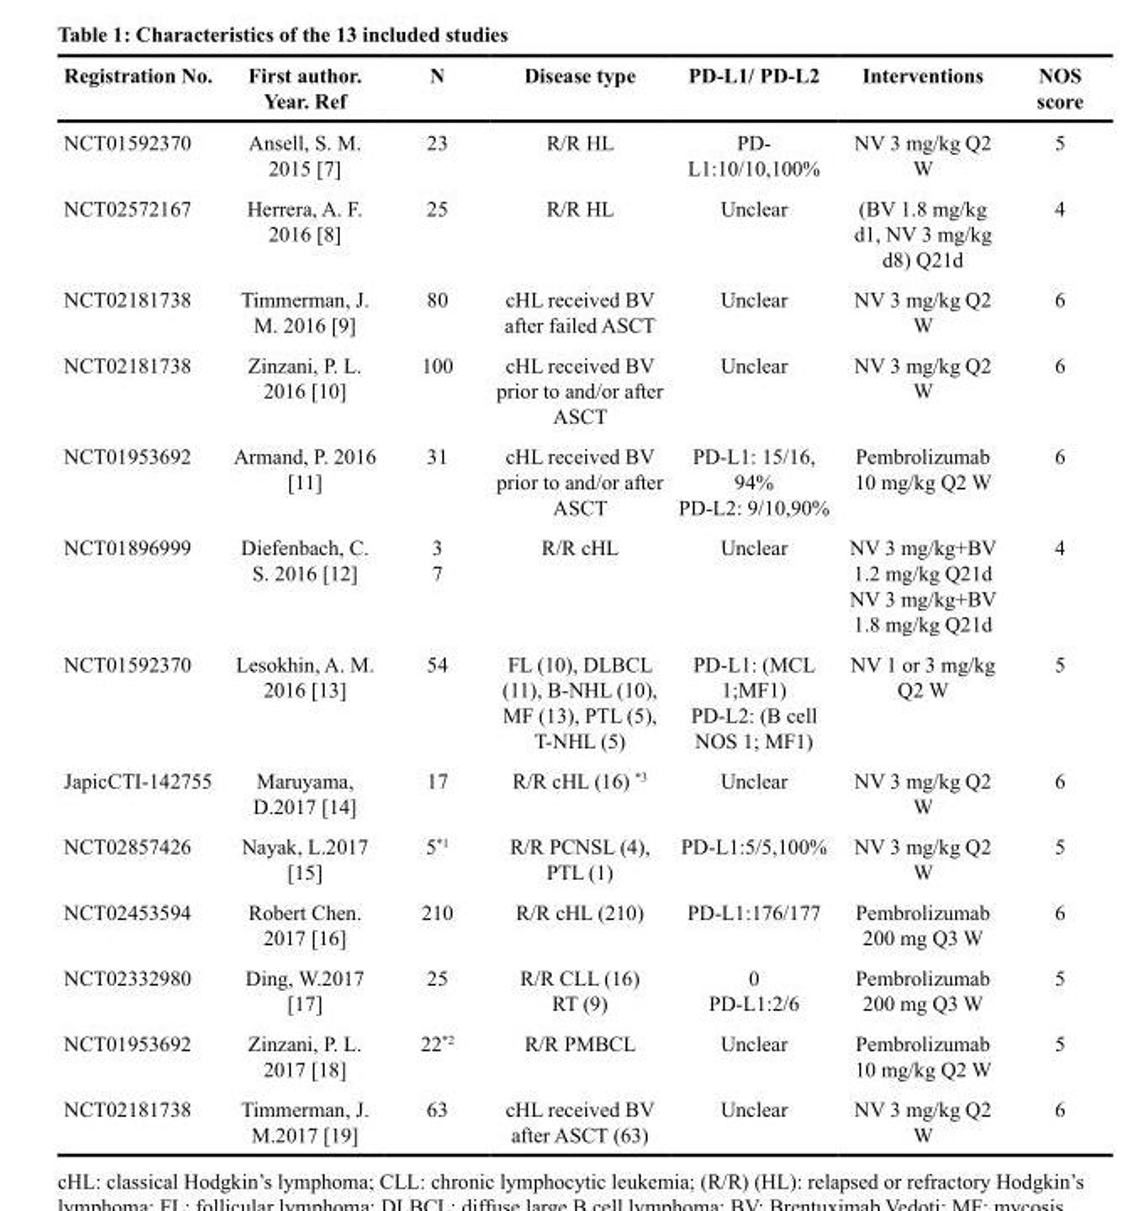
<table><thead><tr><td>Registration No.</td><td>First author. Year. Ref</td><td>N</td><td>Disease type</td><td>PD-L1/ PD-L2</td><td>Interventions</td><td>NOS score</td></tr></thead><tbody><tr><td>NCT01592370</td><td>Ansell, S. M. 2015 [7]</td><td>23</td><td>R/R HL</td><td>PD- L1:10/10,100%</td><td>NV 3 mg/kg Q2 W</td><td>5</td></tr><tr><td>NCT02572167</td><td>Herrera, A. F. 2016 [8]</td><td>25</td><td>R/R HL</td><td>Unclear</td><td>(BV 1.8 mg/kg d1, NV 3 mg/kg d8) Q21d</td><td>4</td></tr><tr><td>NCT02181738</td><td>Timmerman, J. M. 2016 [9]</td><td>80</td><td>cHL received BV after failed ASCT</td><td>Unclear</td><td>NV 3 mg/kg Q2 W</td><td>6</td></tr><tr><td>NCT02181738</td><td>Zinzani, P. L. 2016 [10]</td><td>100</td><td>cHL received BV prior to and/or after ASCT</td><td>Unclear</td><td>NV 3 mg/kg Q2 W</td><td>6</td></tr><tr><td>NCT01953692</td><td>Armand, P. 2016 [11]</td><td>31</td><td>cHL received BV prior to and/or after ASCT</td><td>PD-L1: 15/16, 94% PD-L2: 9/10,90%</td><td>Pembrolizumab 10 mg/kg Q2 W</td><td>6</td></tr><tr><td>NCT01896999</td><td>Diefenbach, C. S. 2016 [12]</td><td>3 7</td><td>R/R cHL</td><td>Unclear</td><td>NV 3 mg/kg+BV 1.2 mg/kg Q21d NV 3 mg/kg+BV 1.8 mg/kg Q21d</td><td>4</td></tr><tr><td>NCT01592370</td><td>Lesokhin, A. M. 2016 [13]</td><td>54</td><td>FL (10), DLBCL (11), B-NHL (10), MF (13), PTL (5), T-NHL (5)</td><td>PD-L1: (MCL 1;MF1) PD-L2: (B cell NOS 1; MF1)</td><td>NV 1 or 3 mg/kg Q2 W</td><td>5</td></tr><tr><td>JapicCTI-142755</td><td>Maruyama, D.2017 [14]</td><td>17</td><td>R/R cHL (16) <sup>*3</sup></td><td>Unclear</td><td>NV 3 mg/kg Q2 W</td><td>6</td></tr><tr><td>NCT02857426</td><td>Nayak, L.2017 [15]</td><td>5<sup>*1</sup></td><td>R/R PCNSL (4), PTL (1)</td><td>PD-L1:5/5,100%</td><td>NV 3 mg/kg Q2 W</td><td>5</td></tr><tr><td>NCT02453594</td><td>Robert Chen. 2017 [16]</td><td>210</td><td>R/R cHL (210)</td><td>PD-L1:176/177</td><td>Pembrolizumab 200 mg Q3 W</td><td>6</td></tr><tr><td>NCT02332980</td><td>Ding, W.2017 [17]</td><td>25</td><td>R/R CLL (16) RT (9)</td><td>0 PD-L1:2/6</td><td>Pembrolizumab 200 mg Q3 W</td><td>5</td></tr><tr><td>NCT01953692</td><td>Zinzani, P. L. 2017 [18]</td><td>22<sup>*2</sup></td><td>R/R PMBCL</td><td>Unclear</td><td>Pembrolizumab 10 mg/kg Q2 W</td><td>5</td></tr><tr><td>NCT02181738</td><td>Timmerman, J. M.2017 [19]</td><td>63</td><td>cHL received BV after ASCT (63)</td><td>Unclear</td><td>NV 3 mg/kg Q2 W</td><td>6</td></tr></tbody></table>